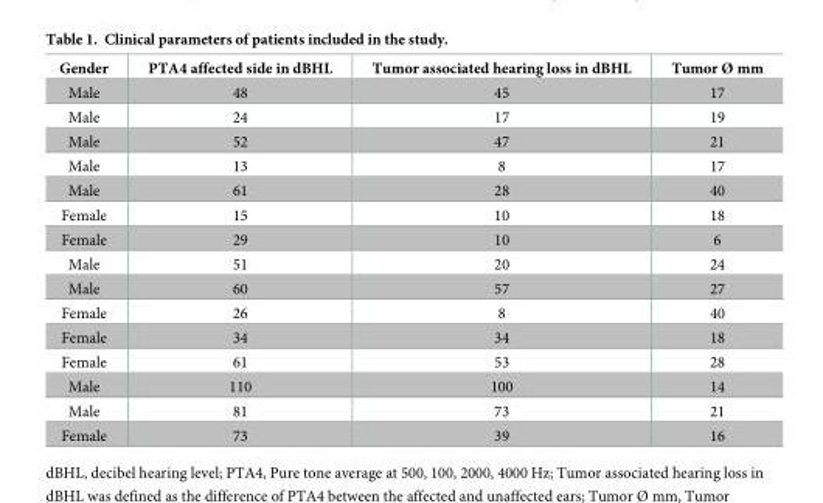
<table><thead><tr><td>Gender</td><td>PTA4 affected side in dBHL</td><td>Tumor associated hearing loss in dBHL</td><td>Tumor Ø mm</td></tr></thead><tbody><tr><td>Male</td><td>48</td><td>45</td><td>17</td></tr><tr><td>Male</td><td>24</td><td>17</td><td>19</td></tr><tr><td>Male</td><td>52</td><td>47</td><td>21</td></tr><tr><td>Male</td><td>13</td><td>8</td><td>17</td></tr><tr><td>Male</td><td>61</td><td>28</td><td>40</td></tr><tr><td>Female</td><td>15</td><td>10</td><td>18</td></tr><tr><td>Female</td><td>29</td><td>10</td><td>6</td></tr><tr><td>Male</td><td>51</td><td>20</td><td>24</td></tr><tr><td>Male</td><td>60</td><td>57</td><td>27</td></tr><tr><td>Female</td><td>26</td><td>8</td><td>40</td></tr><tr><td>Female</td><td>34</td><td>34</td><td>18</td></tr><tr><td>Female</td><td>61</td><td>53</td><td>28</td></tr><tr><td>Male</td><td>110</td><td>100</td><td>14</td></tr><tr><td>Male</td><td>81</td><td>73</td><td>21</td></tr><tr><td>Female</td><td>73</td><td>39</td><td>16</td></tr></tbody></table>